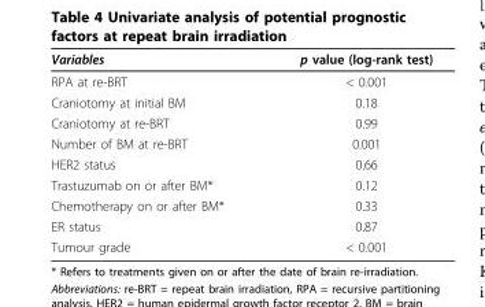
<table><thead><tr><td>Variables</td><td>p value (log-rank test)</td></tr></thead><tbody><tr><td>RPA at re-BRT</td><td>&lt; 0.001</td></tr><tr><td>Craniotomy at initial BM</td><td>0.18</td></tr><tr><td>Craniotomy at re-BRT</td><td>0.99</td></tr><tr><td>Number of BM at re-BRT</td><td>0.001</td></tr><tr><td>HER2 status</td><td>0.66</td></tr><tr><td>Trastuzumab on or after BM*</td><td>0.12</td></tr><tr><td>Chemotherapy on or after BM*</td><td>0.33</td></tr><tr><td>ER status</td><td>0.87</td></tr><tr><td>Tumour grade</td><td>&lt; 0.001</td></tr></tbody></table>